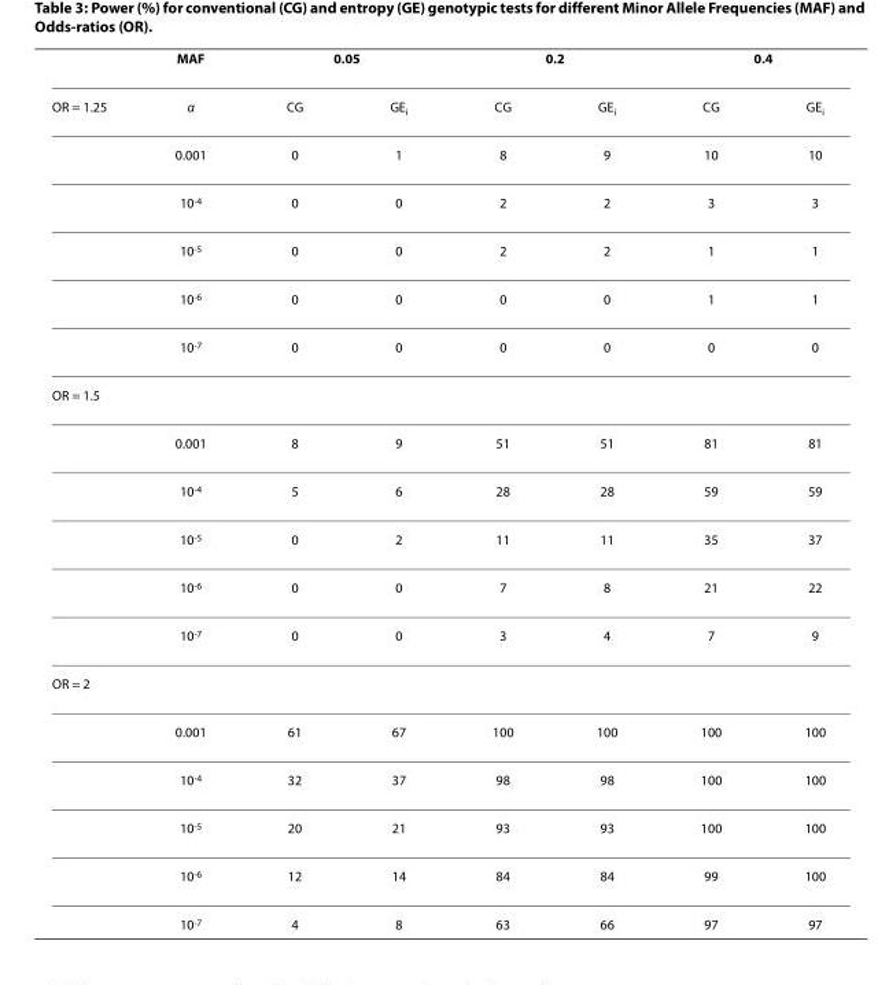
<table><thead><tr><td rowspan="2">OR = 1.25</td><td rowspan="2">MAF α</td><td colspan="2">0.05</td><td colspan="2">0.2</td><td colspan="2">0.4</td></tr><tr><td>CG</td><td>GE<sub>i</sub></td><td>CG</td><td>GE<sub>i</sub></td><td>CG</td><td>GE<sub>i</sub></td></tr></thead><tbody><tr><td></td><td>0.001</td><td>0</td><td>1</td><td>8</td><td>9</td><td>10</td><td>10</td></tr><tr><td></td><td>10<sup>-4</sup></td><td>0</td><td>0</td><td>2</td><td>2</td><td>3</td><td>3</td></tr><tr><td></td><td>10<sup>-5</sup></td><td>0</td><td>0</td><td>2</td><td>2</td><td>1</td><td>1</td></tr><tr><td></td><td>10<sup>-6</sup></td><td>0</td><td>0</td><td>0</td><td>0</td><td>1</td><td>1</td></tr><tr><td></td><td>10<sup>-7</sup></td><td>0</td><td>0</td><td>0</td><td>0</td><td>0</td><td>0</td></tr><tr><td colspan="8">OR = 1.5</td></tr><tr><td></td><td>0.001</td><td>8</td><td>9</td><td>51</td><td>51</td><td>81</td><td>81</td></tr><tr><td></td><td>10<sup>-4</sup></td><td>5</td><td>6</td><td>28</td><td>28</td><td>59</td><td>59</td></tr><tr><td></td><td>10<sup>-5</sup></td><td>0</td><td>2</td><td>11</td><td>11</td><td>35</td><td>37</td></tr><tr><td></td><td>10<sup>-6</sup></td><td>0</td><td>0</td><td>7</td><td>8</td><td>21</td><td>22</td></tr><tr><td></td><td>10<sup>-7</sup></td><td>0</td><td>0</td><td>3</td><td>4</td><td>7</td><td>9</td></tr><tr><td colspan="8">OR = 2</td></tr><tr><td></td><td>0.001</td><td>61</td><td>67</td><td>100</td><td>100</td><td>100</td><td>100</td></tr><tr><td></td><td>10<sup>-4</sup></td><td>32</td><td>37</td><td>98</td><td>98</td><td>100</td><td>100</td></tr><tr><td></td><td>10<sup>-5</sup></td><td>20</td><td>21</td><td>93</td><td>93</td><td>100</td><td>100</td></tr><tr><td></td><td>10<sup>-6</sup></td><td>12</td><td>14</td><td>84</td><td>84</td><td>99</td><td>100</td></tr><tr><td></td><td>10<sup>-7</sup></td><td>4</td><td>8</td><td>63</td><td>66</td><td>97</td><td>97</td></tr></tbody></table>